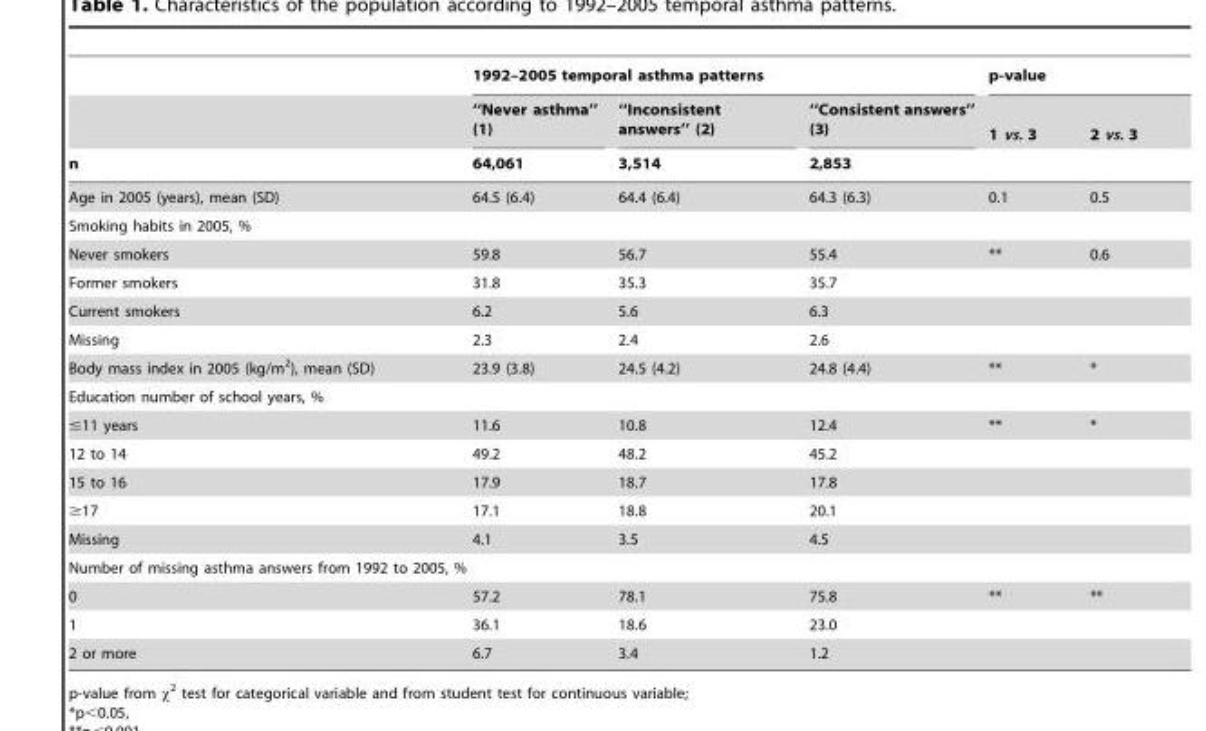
<table><thead><tr><td rowspan="3">n</td><td colspan="3">1992–2005 temporal asthma patterns</td><td colspan="2">p-value</td></tr><tr><td rowspan="2">‘‘Never asthma’’ (1) 64,061</td><td rowspan="2">‘‘Inconsistent answers’’ (2) 3,514</td><td rowspan="2">‘‘Consistent answers’’ (3) 2,853</td><td rowspan="2">1 vs. 3</td><td rowspan="2">2 vs. 3</td></tr><tr></tr></thead><tbody><tr><td>Age in 2005 (years), mean (SD)</td><td>64.5 (6.4)</td><td>64.4 (6.4)</td><td>64.3 (6.3)</td><td>0.1</td><td>0.5</td></tr><tr><td colspan="6">Smoking habits in 2005, %</td></tr><tr><td>Never smokers</td><td>59.8</td><td>56.7</td><td>55.4</td><td>**</td><td>0.6</td></tr><tr><td>Former smokers</td><td>31.8</td><td>35.3</td><td>35.7</td><td></td><td></td></tr><tr><td>Current smokers</td><td>6.2</td><td>5.6</td><td>6.3</td><td></td><td></td></tr><tr><td>Missing</td><td>2.3</td><td>2.4</td><td>2.6</td><td></td><td></td></tr><tr><td>Body mass index in 2005 (kg/m<sup>2</sup>), mean (SD)</td><td>23.9 (3.8)</td><td>24.5 (4.2)</td><td>24.8 (4.4)</td><td>**</td><td>*</td></tr><tr><td colspan="6">Education number of school years, %</td></tr><tr><td>≤11 years</td><td>11.6</td><td>10.8</td><td>12.4</td><td>**</td><td>*</td></tr><tr><td>12 to 14</td><td>49.2</td><td>48.2</td><td>45.2</td><td></td><td></td></tr><tr><td>15 to 16</td><td>17.9</td><td>18.7</td><td>17.8</td><td></td><td></td></tr><tr><td>≥17</td><td>17.1</td><td>18.8</td><td>20.1</td><td></td><td></td></tr><tr><td>Missing</td><td>4.1</td><td>3.5</td><td>4.5</td><td></td><td></td></tr><tr><td colspan="6">Number of missing asthma answers from 1992 to 2005, %</td></tr><tr><td>0</td><td>57.2</td><td>78.1</td><td>75.8</td><td>**</td><td>**</td></tr><tr><td>1</td><td>36.1</td><td>18.6</td><td>23.0</td><td></td><td></td></tr><tr><td>2 or more</td><td>6.7</td><td>3.4</td><td>1.2</td><td></td><td></td></tr></tbody></table>